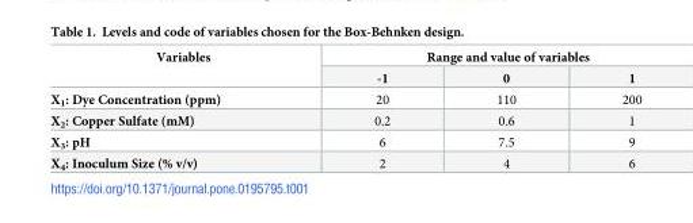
<table><thead><tr><td rowspan="2">Variables</td><td colspan="3">Range and value of variables</td></tr><tr><td>-1</td><td>0</td><td>1</td></tr></thead><tbody><tr><td>X<sub>1</sub>: Dye Concentration (ppm)</td><td>20</td><td>110</td><td>200</td></tr><tr><td>X<sub>2</sub>: Copper Sulfate (mM)</td><td>0.2</td><td>0.6</td><td>1</td></tr><tr><td>X<sub>3</sub>: pH</td><td>6</td><td>7.5</td><td>9</td></tr><tr><td>X<sub>4</sub>: Inoculum Size (% v/v)</td><td>2</td><td>4</td><td>6</td></tr></tbody></table>